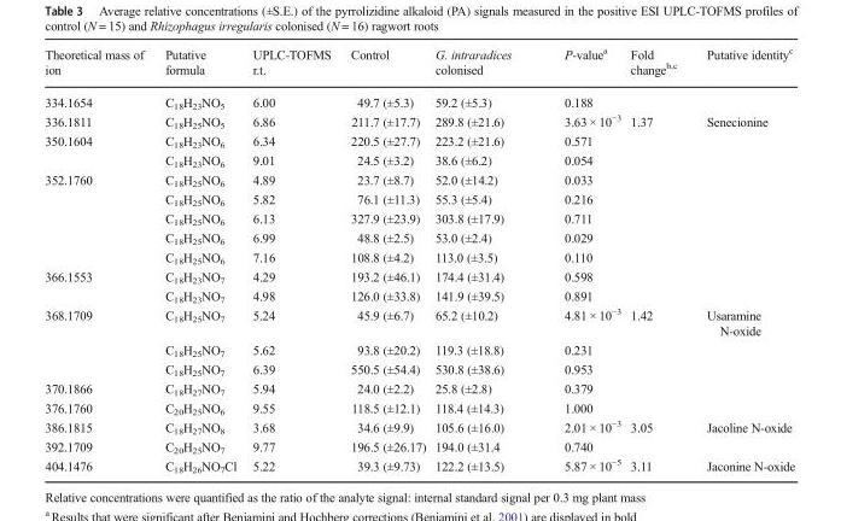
<table><thead><tr><td>Theoretical mass of ion</td><td>Putative formula</td><td>UPLC-TOFMS r.t.</td><td>Control</td><td>G. intraradices colonised</td><td>P-value<sup>a</sup></td><td>Fold change<sup>b,c</sup></td><td>Putative identity<sup>c</sup></td></tr></thead><tbody><tr><td>334.1654</td><td>C<sub>18</sub>H<sub>23</sub>NO<sub>5</sub></td><td>6.00</td><td>49.7 (±5.3)</td><td>59.2 (±5.3)</td><td>0.188</td><td></td><td></td></tr><tr><td>336.1811</td><td>C<sub>18</sub>H<sub>25</sub>NO<sub>5</sub></td><td>6.86</td><td>211.7 (±17.7)</td><td>289.8 (±21.6)</td><td>3.63 × 10<sup>−3</sup></td><td>1.37</td><td>Senecionine</td></tr><tr><td rowspan="2">350.1604</td><td>C<sub>18</sub>H<sub>23</sub>NO<sub>6</sub></td><td>6.34</td><td>220.5 (±27.7)</td><td>223.2 (±21.6)</td><td>0.571</td><td></td><td></td></tr><tr><td>C<sub>18</sub>H<sub>23</sub>NO<sub>6</sub></td><td>9.01</td><td>24.5 (±3.2)</td><td>38.6 (±6.2)</td><td>0.054</td><td></td><td></td></tr><tr><td rowspan="5">352.1760</td><td>C<sub>18</sub>H<sub>25</sub>NO<sub>6</sub></td><td>4.89</td><td>23.7 (±8.7)</td><td>52.0 (±14.2)</td><td>0.033</td><td></td><td></td></tr><tr><td>C<sub>18</sub>H<sub>25</sub>NO<sub>6</sub></td><td>5.82</td><td>76.1 (±11.3)</td><td>55.3 (±5.4)</td><td>0.216</td><td></td><td></td></tr><tr><td>C<sub>18</sub>H<sub>25</sub>NO<sub>6</sub></td><td>6.13</td><td>327.9 (±23.9)</td><td>303.8 (±17.9)</td><td>0.711</td><td></td><td></td></tr><tr><td>C<sub>18</sub>H<sub>25</sub>NO<sub>6</sub></td><td>6.99</td><td>48.8 (±2.5)</td><td>53.0 (±2.4)</td><td>0.029</td><td></td><td></td></tr><tr><td>C<sub>18</sub>H<sub>25</sub>NO<sub>6</sub></td><td>7.16</td><td>108.8 (±4.2)</td><td>113.0 (±3.5)</td><td>0.110</td><td></td><td></td></tr><tr><td rowspan="2">366.1553</td><td>C<sub>18</sub>H<sub>23</sub>NO<sub>7</sub></td><td>4.29</td><td>193.2 (±46.1)</td><td>174.4 (±31.4)</td><td>0.598</td><td></td><td></td></tr><tr><td>C<sub>18</sub>H<sub>23</sub>NO<sub>7</sub></td><td>4.98</td><td>126.0 (±33.8)</td><td>141.9 (±39.5)</td><td>0.891</td><td></td><td></td></tr><tr><td rowspan="3">368.1709</td><td>C<sub>18</sub>H<sub>25</sub>NO<sub>7</sub></td><td>5.24</td><td>45.9 (±6.7)</td><td>65.2 (±10.2)</td><td>4.81 × 10<sup>−3</sup></td><td>1.42</td><td>Usaramine N-oxide</td></tr><tr><td>C<sub>18</sub>H<sub>25</sub>NO<sub>7</sub></td><td>5.62</td><td>93.8 (±20.2)</td><td>119.3 (±18.8)</td><td>0.231</td><td></td><td></td></tr><tr><td>C<sub>18</sub>H<sub>25</sub>NO<sub>7</sub></td><td>6.39</td><td>550.5 (±54.4)</td><td>530.8 (±38.6)</td><td>0.953</td><td></td><td></td></tr><tr><td>370.1866</td><td>C<sub>18</sub>H<sub>27</sub>NO<sub>7</sub></td><td>5.94</td><td>24.0 (±2.2)</td><td>25.8 (±2.8)</td><td>0.379</td><td></td><td></td></tr><tr><td>376.1760</td><td>C<sub>20</sub>H<sub>25</sub>NO<sub>6</sub></td><td>9.55</td><td>118.5 (±12.1)</td><td>118.4 (±14.3)</td><td>1.000</td><td></td><td></td></tr><tr><td>386.1815</td><td>C<sub>18</sub>H<sub>27</sub>NO<sub>8</sub></td><td>3.68</td><td>34.6 (±9.9)</td><td>105.6 (±16.0)</td><td>2.01 × 10<sup>−3</sup></td><td>3.05</td><td>Jacoline N-oxide</td></tr><tr><td>392.1709</td><td>C<sub>20</sub>H<sub>25</sub>NO<sub>7</sub></td><td>9.77</td><td>196.5 (±26.17)</td><td>194.0 (±31.4</td><td>0.740</td><td></td><td></td></tr><tr><td>404.1476</td><td>C<sub>18</sub>H<sub>26</sub>NO<sub>7</sub>Cl</td><td>5.22</td><td>39.3 (±9.73)</td><td>122.2 (±13.5)</td><td>5.87 × 10<sup>−5</sup></td><td>3.11</td><td>Jaconine N-oxide</td></tr></tbody></table>